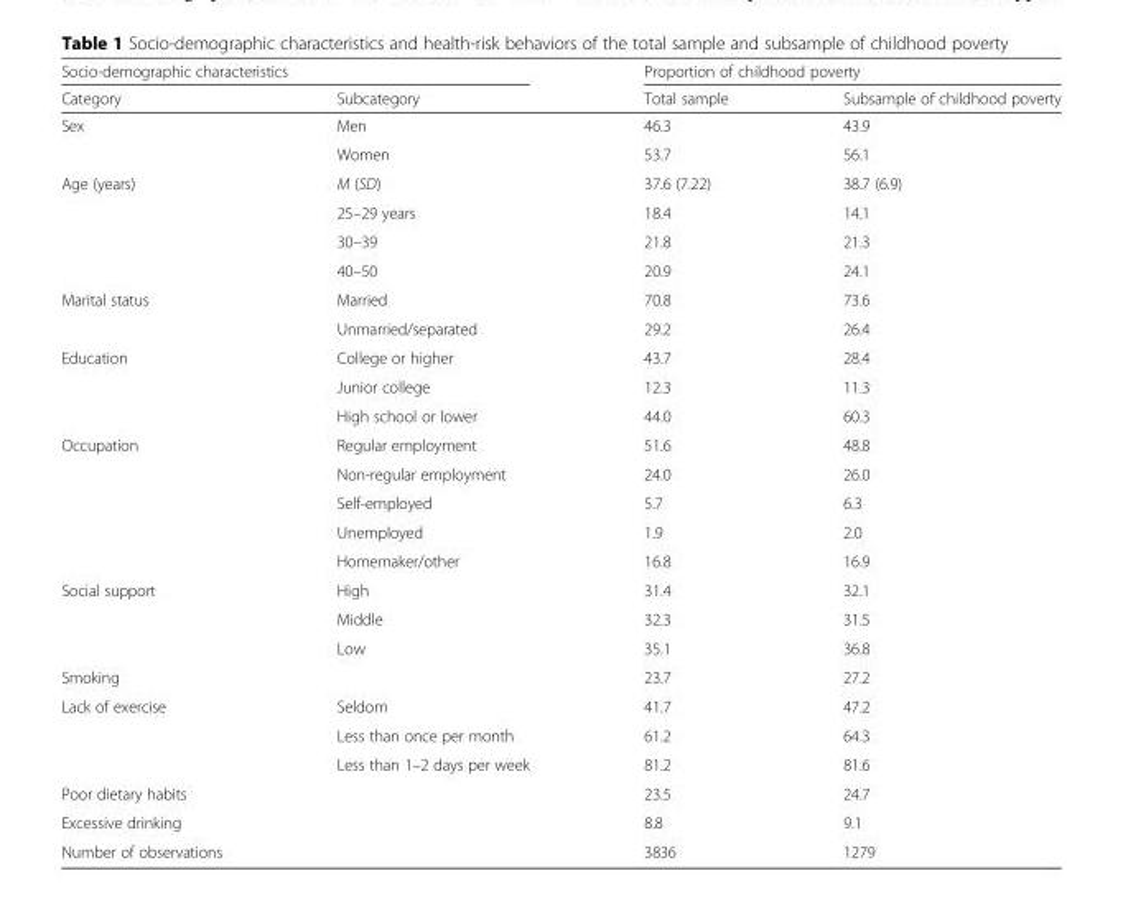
<table><thead><tr><td colspan="2">Socio-demographic characteristics</td><td colspan="2">Proportion of childhood poverty</td></tr><tr><td>Category</td><td>Subcategory</td><td>Total sample</td><td>Subsample of childhood poverty</td></tr></thead><tbody><tr><td rowspan="2">Sex</td><td>Men</td><td>46.3</td><td>43.9</td></tr><tr><td>Women</td><td>53.7</td><td>56.1</td></tr><tr><td rowspan="4">Age (years)</td><td>M (SD)</td><td>37.6 (7.22)</td><td>38.7 (6.9)</td></tr><tr><td>25–29 years</td><td>18.4</td><td>14.1</td></tr><tr><td>30–39</td><td>21.8</td><td>21.3</td></tr><tr><td>40–50</td><td>20.9</td><td>24.1</td></tr><tr><td rowspan="2">Marital status</td><td>Married</td><td>70.8</td><td>73.6</td></tr><tr><td>Unmarried/separated</td><td>29.2</td><td>26.4</td></tr><tr><td rowspan="3">Education</td><td>College or higher</td><td>43.7</td><td>28.4</td></tr><tr><td>Junior college</td><td>12.3</td><td>11.3</td></tr><tr><td>High school or lower</td><td>44.0</td><td>60.3</td></tr><tr><td rowspan="5">Occupation</td><td>Regular employment</td><td>51.6</td><td>48.8</td></tr><tr><td>Non-regular employment</td><td>24.0</td><td>26.0</td></tr><tr><td>Self-employed</td><td>5.7</td><td>6.3</td></tr><tr><td>Unemployed</td><td>1.9</td><td>2.0</td></tr><tr><td>Homemaker/other</td><td>16.8</td><td>16.9</td></tr><tr><td rowspan="3">Social support</td><td>High</td><td>31.4</td><td>32.1</td></tr><tr><td>Middle</td><td>32.3</td><td>31.5</td></tr><tr><td>Low</td><td>35.1</td><td>36.8</td></tr><tr><td>Smoking</td><td></td><td>23.7</td><td>27.2</td></tr><tr><td rowspan="3">Lack of exercise</td><td>Seldom</td><td>41.7</td><td>47.2</td></tr><tr><td>Less than once per month</td><td>61.2</td><td>64.3</td></tr><tr><td>Less than 1–2 days per week</td><td>81.2</td><td>81.6</td></tr><tr><td>Poor dietary habits</td><td></td><td>23.5</td><td>24.7</td></tr><tr><td>Excessive drinking</td><td></td><td>8.8</td><td>9.1</td></tr><tr><td>Number of observations</td><td></td><td>3836</td><td>1279</td></tr></tbody></table>